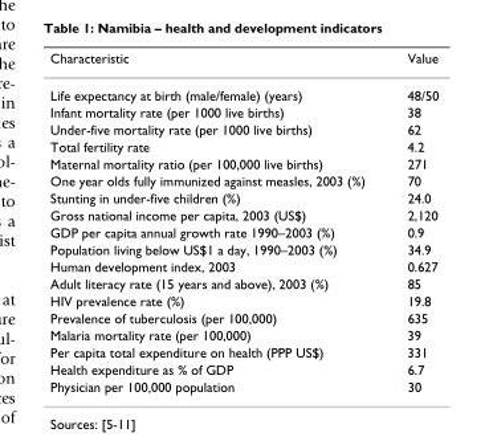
<table><thead><tr><td>Characteristic</td><td>Value</td></tr></thead><tbody><tr><td>Life expectancy at birth (male/female) (years)</td><td>48/50</td></tr><tr><td>Infant mortality rate (per 1000 live births)</td><td>38</td></tr><tr><td>Under-five mortality rate (per 1000 live births)</td><td>62</td></tr><tr><td>Total fertility rate</td><td>4.2</td></tr><tr><td>Maternal mortality ratio (per 100,000 live births)</td><td>271</td></tr><tr><td>One year olds fully immunized against measles, 2003 (%)</td><td>70</td></tr><tr><td>Stunting in under-five children (%)</td><td>24.0</td></tr><tr><td>Gross national income per capita, 2003 (US$)</td><td>2,120</td></tr><tr><td>GDP per capita annual growth rate 1990–2003 (%)</td><td>0.9</td></tr><tr><td>Population living below US$1 a day, 1990–2003 (%)</td><td>34.9</td></tr><tr><td>Human development index, 2003</td><td>0.627</td></tr><tr><td>Adult literacy rate (15 years and above), 2003 (%)</td><td>85</td></tr><tr><td>HIV prevalence rate (%)</td><td>19.8</td></tr><tr><td>Prevalence of tuberculosis (per 100,000)</td><td>635</td></tr><tr><td>Malaria mortality rate (per 100,000)</td><td>39</td></tr><tr><td>Per capita total expenditure on health (PPP US$)</td><td>331</td></tr><tr><td>Health expenditure as % of GDP</td><td>6.7</td></tr><tr><td>Physician per 100,000 population</td><td>30</td></tr></tbody></table>